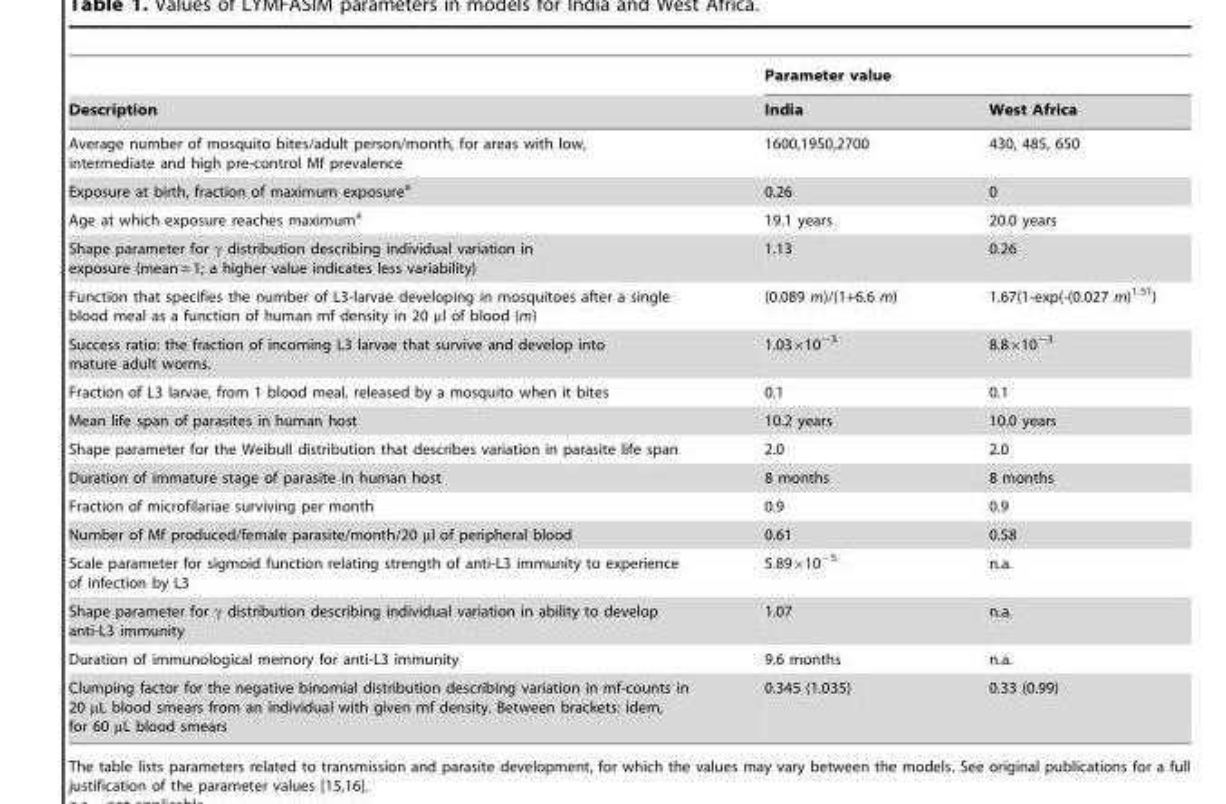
<table><thead><tr><td rowspan="2">Description</td><td colspan="2">Parameter value</td></tr><tr><td>India</td><td>West Africa</td></tr></thead><tbody><tr><td>Average number of mosquito bites/adult person/month, for areas with low, intermediate and high pre-control Mf prevalence</td><td>1600,1950,2700</td><td>430, 485, 650</td></tr><tr><td>Exposure at birth, fraction of maximum exposure<sup>a</sup></td><td>0.26</td><td>0</td></tr><tr><td>Age at which exposure reaches maximum<sup>a</sup></td><td>19.1 years</td><td>20.0 years</td></tr><tr><td>Shape parameter for γ distribution describing individual variation in exposure (mean = 1; a higher value indicates less variability)</td><td>1.13</td><td>0.26</td></tr><tr><td>Function that specifies the number of L3-larvae developing in mosquitoes after a single blood meal as a function of human mf density in 20 µl of blood (m)</td><td>(0.089 m)/(1+6.6 m)</td><td>1.67(1-exp(-(0.027 m)<sup>1.51</sup>)</td></tr><tr><td>Success ratio: the fraction of incoming L3 larvae that survive and develop into mature adult worms.</td><td>1.03×10<sup>−3</sup></td><td>8.8×10<sup>−3</sup></td></tr><tr><td>Fraction of L3 larvae, from 1 blood meal, released by a mosquito when it bites</td><td>0.1</td><td>0.1</td></tr><tr><td>Mean life span of parasites in human host</td><td>10.2 years</td><td>10.0 years</td></tr><tr><td>Shape parameter for the Weibull distribution that describes variation in parasite life span</td><td>2.0</td><td>2.0</td></tr><tr><td>Duration of immature stage of parasite in human host</td><td>8 months</td><td>8 months</td></tr><tr><td>Fraction of microfilariae surviving per month</td><td>0.9</td><td>0.9</td></tr><tr><td>Number of Mf produced/female parasite/month/20 µl of peripheral blood</td><td>0.61</td><td>0.58</td></tr><tr><td>Scale parameter for sigmoid function relating strength of anti-L3 immunity to experience of infection by L3</td><td>5.89×10<sup>−5</sup></td><td>n.a.</td></tr><tr><td>Shape parameter for γ distribution describing individual variation in ability to develop anti-L3 immunity</td><td>1.07</td><td>n.a.</td></tr><tr><td>Duration of immunological memory for anti-L3 immunity</td><td>9.6 months</td><td>n.a.</td></tr><tr><td>Clumping factor for the negative binomial distribution describing variation in mf-counts in 20 µL blood smears from an individual with given mf density. Between brackets: idem, for 60 µL blood smears</td><td>0.345 (1.035)</td><td>0.33 (0.99)</td></tr></tbody></table>